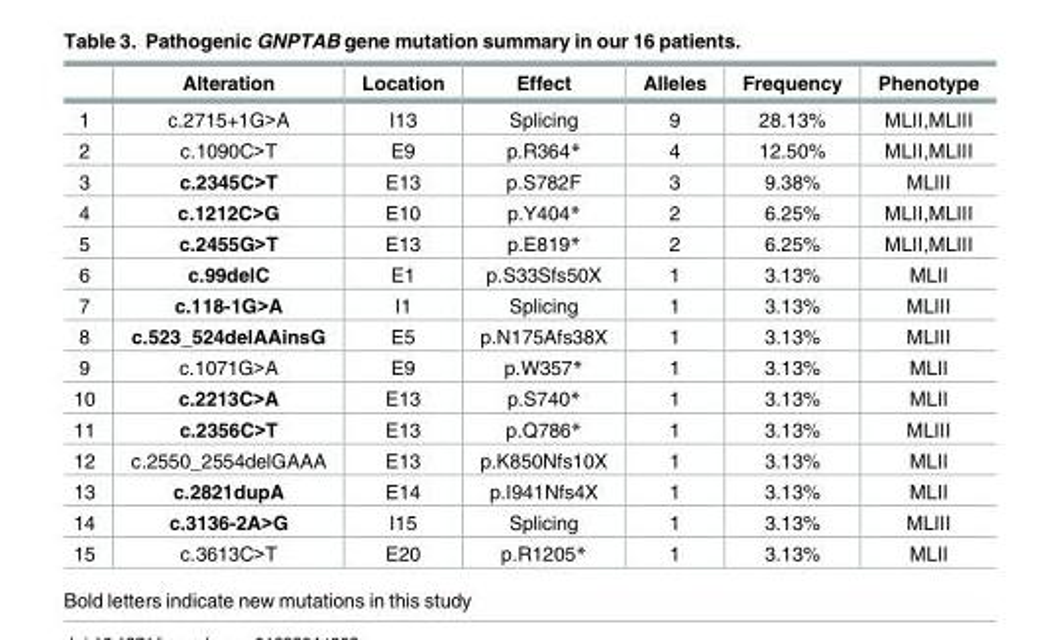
<table><thead><tr><td></td><td>Alteration</td><td>Location</td><td>Effect</td><td>Alleles</td><td>Frequency</td><td>Phenotype</td></tr></thead><tbody><tr><td>1</td><td>c.2715+1G&gt;A</td><td>I13</td><td>Splicing</td><td>9</td><td>28.13%</td><td>MLII,MLIII</td></tr><tr><td>2</td><td>c.1090C&gt;T</td><td>E9</td><td>p.R364*</td><td>4</td><td>12.50%</td><td>MLII,MLIII</td></tr><tr><td>3</td><td>c.2345C&gt;T</td><td>E13</td><td>p.S782F</td><td>3</td><td>9.38%</td><td>MLIII</td></tr><tr><td>4</td><td>c.1212C&gt;G</td><td>E10</td><td>p.Y404*</td><td>2</td><td>6.25%</td><td>MLII,MLIII</td></tr><tr><td>5</td><td>c.2455G&gt;T</td><td>E13</td><td>p.E819*</td><td>2</td><td>6.25%</td><td>MLII,MLIII</td></tr><tr><td>6</td><td>c.99delC</td><td>E1</td><td>p.S33Sfs50X</td><td>1</td><td>3.13%</td><td>MLII</td></tr><tr><td>7</td><td>c.118-1G&gt;A</td><td>I1</td><td>Splicing</td><td>1</td><td>3.13%</td><td>MLIII</td></tr><tr><td>8</td><td>c.523_524delAAinsG</td><td>E5</td><td>p.N175Afs38X</td><td>1</td><td>3.13%</td><td>MLIII</td></tr><tr><td>9</td><td>c.1071G&gt;A</td><td>E9</td><td>p.W357*</td><td>1</td><td>3.13%</td><td>MLII</td></tr><tr><td>10</td><td>c.2213C&gt;A</td><td>E13</td><td>p.S740*</td><td>1</td><td>3.13%</td><td>MLII</td></tr><tr><td>11</td><td>c.2356C&gt;T</td><td>E13</td><td>p.Q786*</td><td>1</td><td>3.13%</td><td>MLIII</td></tr><tr><td>12</td><td>c.2550_2554delGAAA</td><td>E13</td><td>p.K850Nfs10X</td><td>1</td><td>3.13%</td><td>MLII</td></tr><tr><td>13</td><td>c.2821dupA</td><td>E14</td><td>p.I941Nfs4X</td><td>1</td><td>3.13%</td><td>MLII</td></tr><tr><td>14</td><td>c.3136-2A&gt;G</td><td>I15</td><td>Splicing</td><td>1</td><td>3.13%</td><td>MLIII</td></tr><tr><td>15</td><td>c.3613C&gt;T</td><td>E20</td><td>p.R1205*</td><td>1</td><td>3.13%</td><td>MLII</td></tr></tbody></table>